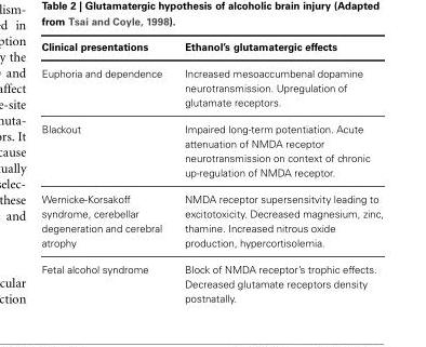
<table><thead><tr><td>Clinical presentations</td><td>Ethanol’s glutamatergic effects</td></tr></thead><tbody><tr><td>Euphoria and dependence</td><td>Increased mesoaccumbenal dopamine neurotransmission. Upregulation of glutamate receptors.</td></tr><tr><td>Blackout</td><td>Impaired long-term potentiation. Acute attenuation of NMDA receptor neurotransmission on context of chronic up-regulation of NMDA receptor.</td></tr><tr><td>Wernicke-Korsakoff syndrome, cerebellar degeneration and cerebral atrophy</td><td>NMDA receptor supersensitvity leading to excitotoxicity. Decreased magnesium, zinc, thamine. Increased nitrous oxide production, hypercortisolemia.</td></tr><tr><td rowspan="2">Fetal alcohol syndrome</td><td>Block of NMDA receptor’s trophic effects.</td></tr><tr><td>Decreased glutamate receptors density postnatally.</td></tr></tbody></table>